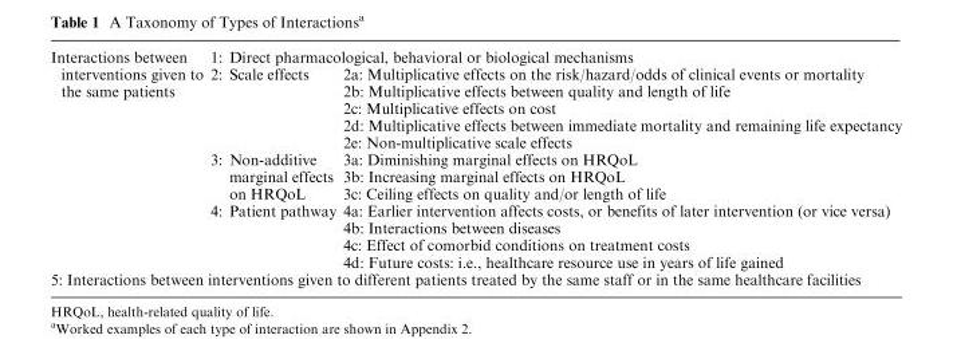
<table><tbody><tr><td rowspan="13">Interactions between interventions given to the same patients</td><td colspan="2">1: Direct pharmacological, behavioral or biological mechanisms</td></tr><tr><td rowspan="5">2: Scale effects</td><td>2a: Multiplicative effects on the risk/hazard/odds of clinical events or mortality</td></tr><tr><td>2b: Multiplicative effects between quality and length of life</td></tr><tr><td>2c: Multiplicative effects on cost</td></tr><tr><td>2d: Multiplicative effects between immediate mortality and remaining life expectancy</td></tr><tr><td>2e: Non-multiplicative scale effects</td></tr><tr><td rowspan="3">3: Non-additive marginal effects on HRQoL</td><td>3a: Diminishing marginal effects on HRQoL</td></tr><tr><td>3b: Increasing marginal effects on HRQoL</td></tr><tr><td>3c: Ceiling effects on quality and/or length of life</td></tr><tr><td rowspan="4">4: Patient pathway</td><td>4a: Earlier intervention affects costs, or benefits of later intervention (or vice versa)</td></tr><tr><td>4b: Interactions between diseases</td></tr><tr><td>4c: Effect of comorbid conditions on treatment costs</td></tr><tr><td>4d: Future costs: i.e., healthcare resource use in years of life gained</td></tr><tr><td colspan="3">5: Interactions between interventions given to different patients treated by the same staff or in the same healthcare facilities</td></tr></tbody></table>